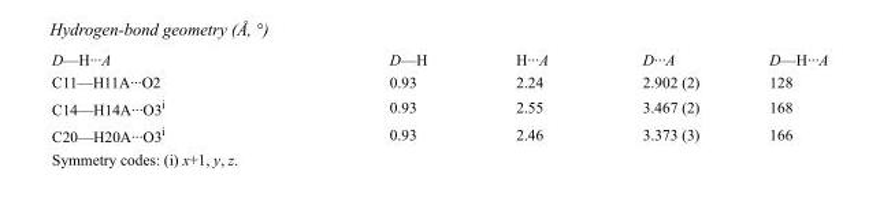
<table><tbody><tr><td>D—H···A</td><td>D—H</td><td>H···A</td><td>D···A</td><td>D—H···A</td></tr><tr><td>C11—H11A···O2</td><td>0.93</td><td>2.24</td><td>2.902 (2)</td><td>128</td></tr><tr><td>C14—H14A···O3<sup>i</sup></td><td>0.93</td><td>2.55</td><td>3.467 (2)</td><td>168</td></tr><tr><td>C20—H20A···O3<sup>i</sup></td><td>0.93</td><td>2.46</td><td>3.373 (3)</td><td>166</td></tr></tbody></table>